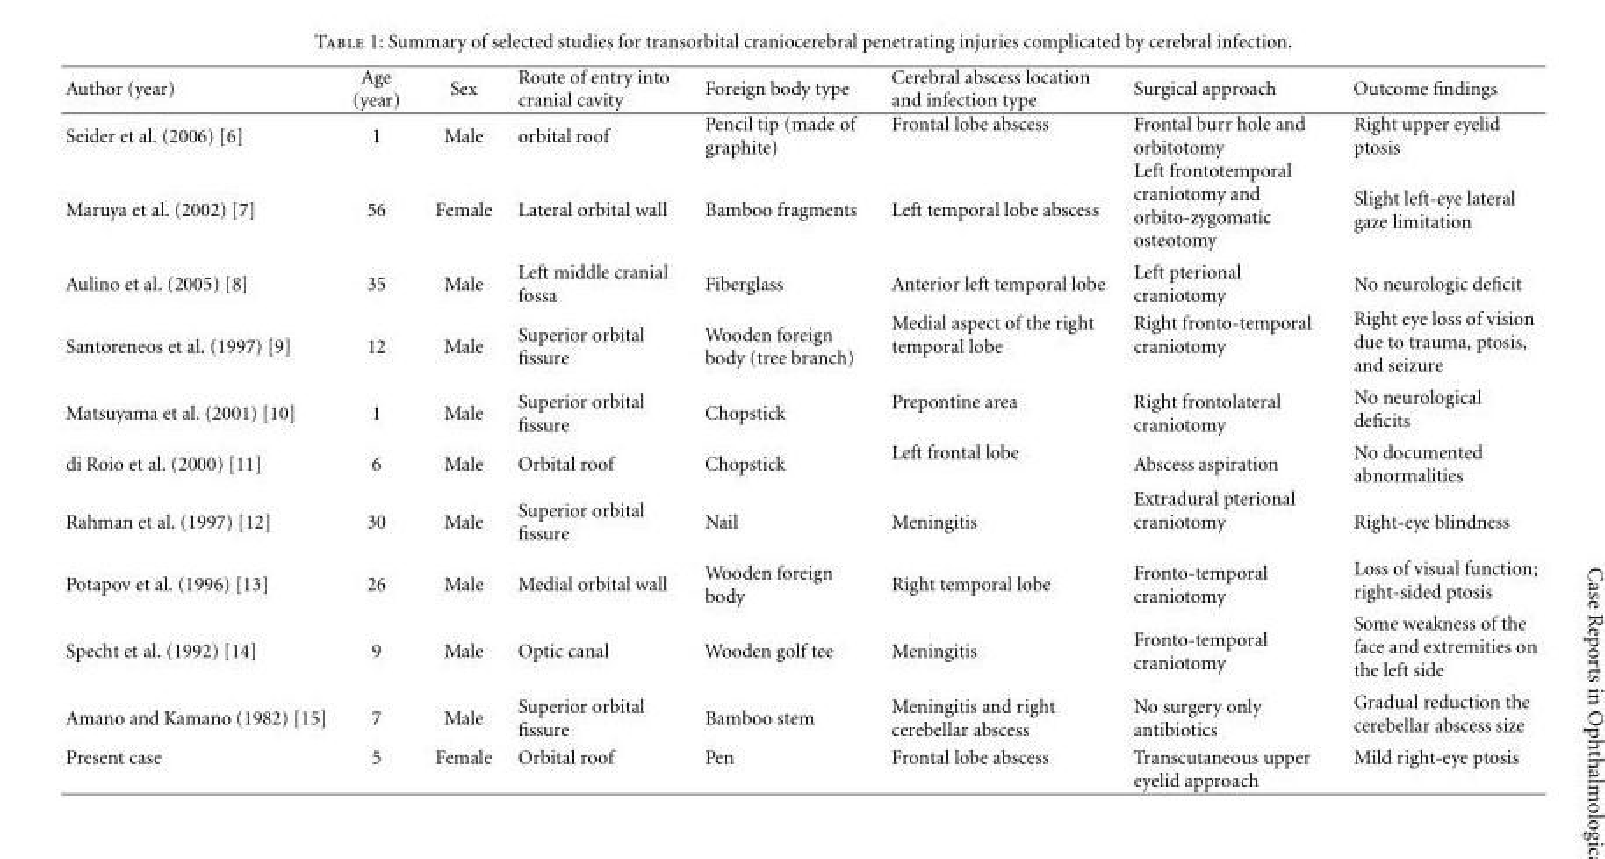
<table><thead><tr><td>Author (year)</td><td>Age (year)</td><td>Sex</td><td>Route of entry into cranial cavity</td><td>Foreign body type</td><td>Cerebral abscess location and infection type</td><td>Surgical approach</td><td>Outcome findings</td></tr></thead><tbody><tr><td>Seider et al. (2006) [6]</td><td>1</td><td>Male</td><td>orbital roof</td><td>Pencil tip (made of graphite)</td><td>Frontal lobe abscess</td><td>Frontal burr hole and orbitotomy</td><td>Right upper eyelid ptosis</td></tr><tr><td>Maruya et al. (2002) [7]</td><td>56</td><td>Female</td><td>Lateral orbital wall</td><td>Bamboo fragments</td><td>Left temporal lobe abscess</td><td>Left frontotemporal craniotomy and orbito-zygomatic osteotomy</td><td>Slight left-eye lateral gaze limitation</td></tr><tr><td>Aulino et al. (2005) [8]</td><td>35</td><td>Male</td><td>Left middle cranial fossa</td><td>Fiberglass</td><td>Anterior left temporal lobe</td><td>Left pterional craniotomy</td><td>No neurologic deficit</td></tr><tr><td>Santoreneos et al. (1997) [9]</td><td>12</td><td>Male</td><td>Superior orbital fissure</td><td>Wooden foreign body (tree branch)</td><td>Medial aspect of the right temporal lobe</td><td>Right fronto-temporal craniotomy</td><td>Right eye loss of vision due to trauma, ptosis, and seizure</td></tr><tr><td>Matsuyama et al. (2001) [10]</td><td>1</td><td>Male</td><td>Superior orbital fissure</td><td>Chopstick</td><td>Prepontine area</td><td>Right frontolateral craniotomy</td><td>No neurological deficits</td></tr><tr><td>di Roio et al. (2000) [11]</td><td>6</td><td>Male</td><td>Orbital roof</td><td>Chopstick</td><td>Left frontal lobe</td><td>Abscess aspiration</td><td>No documented abnormalities</td></tr><tr><td>Rahman et al. (1997) [12]</td><td>30</td><td>Male</td><td>Superior orbital fissure</td><td>Nail</td><td>Meningitis</td><td>Extradural pterional craniotomy</td><td>Right-eye blindness</td></tr><tr><td>Potapov et al. (1996) [13]</td><td>26</td><td>Male</td><td>Medial orbital wall</td><td>Wooden foreign body</td><td>Right temporal lobe</td><td>Fronto-temporal craniotomy</td><td>Loss of visual function; right-sided ptosis</td></tr><tr><td>Specht et al. (1992) [14]</td><td>9</td><td>Male</td><td>Optic canal</td><td>Wooden golf tee</td><td>Meningitis</td><td>Fronto-temporal craniotomy</td><td>Some weakness of the face and extremities on the left side</td></tr><tr><td>Amano and Kamano (1982) [15]</td><td>7</td><td>Male</td><td>Superior orbital fissure</td><td>Bamboo stem</td><td>Meningitis and right cerebellar abscess</td><td>No surgery only antibiotics</td><td>Gradual reduction the cerebellar abscess size</td></tr><tr><td>Present case</td><td>5</td><td>Female</td><td>Orbital roof</td><td>Pen</td><td>Frontal lobe abscess</td><td>Transcutaneous upper eyelid approach</td><td>Mild right-eye ptosis</td></tr></tbody></table>